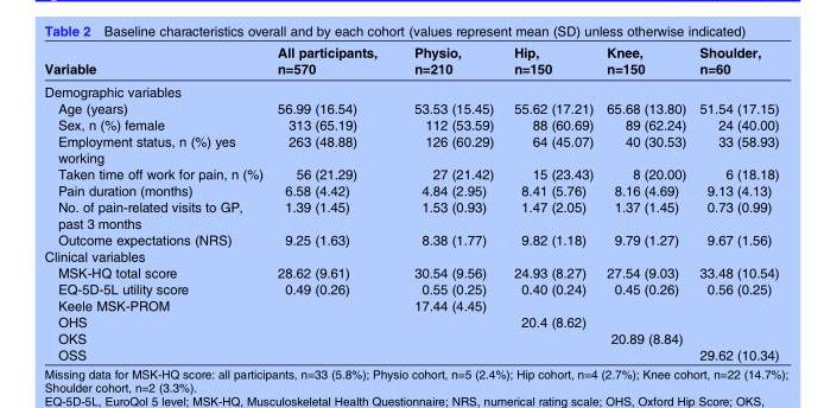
<table><thead><tr><td>Variable</td><td>All participants, n=570</td><td>Physio, n=210</td><td>Hip, n=150</td><td>Knee, n=150</td><td>Shoulder, n=60</td></tr></thead><tbody><tr><td colspan="6">Demographic variables</td></tr><tr><td>Age (years)</td><td>56.99 (16.54)</td><td>53.53 (15.45)</td><td>55.62 (17.21)</td><td>65.68 (13.80)</td><td>51.54 (17.15)</td></tr><tr><td>Sex, n (%) female</td><td>313 (65.19)</td><td>112 (53.59)</td><td>88 (60.69)</td><td>89 (62.24)</td><td>24 (40.00)</td></tr><tr><td>Employment status, n (%) yes working</td><td>263 (48.88)</td><td>126 (60.29)</td><td>64 (45.07)</td><td>40 (30.53)</td><td>33 (58.93)</td></tr><tr><td>Taken time off work for pain, n (%)</td><td>56 (21.29)</td><td>27 (21.42)</td><td>15 (23.43)</td><td>8 (20.00)</td><td>6 (18.18)</td></tr><tr><td>Pain duration (months)</td><td>6.58 (4.42)</td><td>4.84 (2.95)</td><td>8.41 (5.76)</td><td>8.16 (4.69)</td><td>9.13 (4.13)</td></tr><tr><td>No. of pain-related visits to GP, past 3 months</td><td>1.39 (1.45)</td><td>1.53 (0.93)</td><td>1.47 (2.05)</td><td>1.37 (1.45)</td><td>0.73 (0.99)</td></tr><tr><td>Outcome expectations (NRS)</td><td>9.25 (1.63)</td><td>8.38 (1.77)</td><td>9.82 (1.18)</td><td>9.79 (1.27)</td><td>9.67 (1.56)</td></tr><tr><td colspan="6">Clinical variables</td></tr><tr><td>MSK-HQ total score</td><td>28.62 (9.61)</td><td>30.54 (9.56)</td><td>24.93 (8.27)</td><td>27.54 (9.03)</td><td>33.48 (10.54)</td></tr><tr><td>EQ-5D-5L utility score</td><td>0.49 (0.26)</td><td>0.55 (0.25)</td><td>0.40 (0.24)</td><td>0.45 (0.26)</td><td>0.56 (0.25)</td></tr><tr><td>Keele MSK-PROM</td><td></td><td>17.44 (4.45)</td><td></td><td></td><td></td></tr><tr><td>OHS</td><td></td><td></td><td>20.4 (8.62)</td><td></td><td></td></tr><tr><td>OKS</td><td></td><td></td><td></td><td>20.89 (8.84)</td><td></td></tr><tr><td>OSS</td><td></td><td></td><td></td><td></td><td>29.62 (10.34)</td></tr></tbody></table>